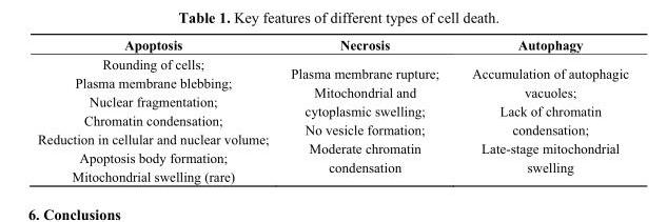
<table><thead><tr><td>Apoptosis</td><td>Necrosis</td><td>Autophagy</td></tr></thead><tbody><tr><td>Rounding of cells; Plasma membrane blebbing; Nuclear fragmentation; Chromatin condensation; Reduction in cellular and nuclear volume; Apoptosis body formation; Mitochondrial swelling (rare)</td><td>Plasma membrane rupture; Mitochondrial and cytoplasmic swelling; No vesicle formation; Moderate chromatin condensation</td><td>Accumulation of autophagic vacuoles; Lack of chromatin condensation; Late-stage mitochondrial swelling</td></tr></tbody></table>